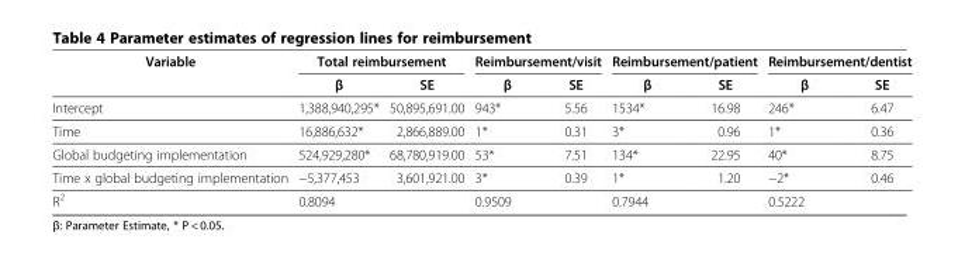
<table><thead><tr><td rowspan="2">Variable</td><td colspan="2">Total reimbursement</td><td colspan="2">Reimbursement/visit</td><td colspan="2">Reimbursement/patient</td><td colspan="2">Reimbursement/dentist</td></tr><tr><td>β</td><td>SE</td><td>β</td><td>SE</td><td>β</td><td>SE</td><td>β</td><td>SE</td></tr></thead><tbody><tr><td>Intercept</td><td>1,388,940,295*</td><td>50,895,691.00</td><td>943*</td><td>5.56</td><td>1534*</td><td>16.98</td><td>246*</td><td>6.47</td></tr><tr><td>Time</td><td>16,886,632*</td><td>2,866,889.00</td><td>1*</td><td>0.31</td><td>3*</td><td>0.96</td><td>1*</td><td>0.36</td></tr><tr><td>Global budgeting implementation</td><td>524,929,280*</td><td>68,780,919.00</td><td>53*</td><td>7.51</td><td>134*</td><td>22.95</td><td>40*</td><td>8.75</td></tr><tr><td>Time x global budgeting implementation</td><td>−5,377,453</td><td>3,601,921.00</td><td>3*</td><td>0.39</td><td>1*</td><td>1.20</td><td>−2*</td><td>0.46</td></tr><tr><td>R<sup>2</sup></td><td>0.8094</td><td></td><td>0.9509</td><td></td><td>0.7944</td><td></td><td>0.5222</td><td></td></tr></tbody></table>